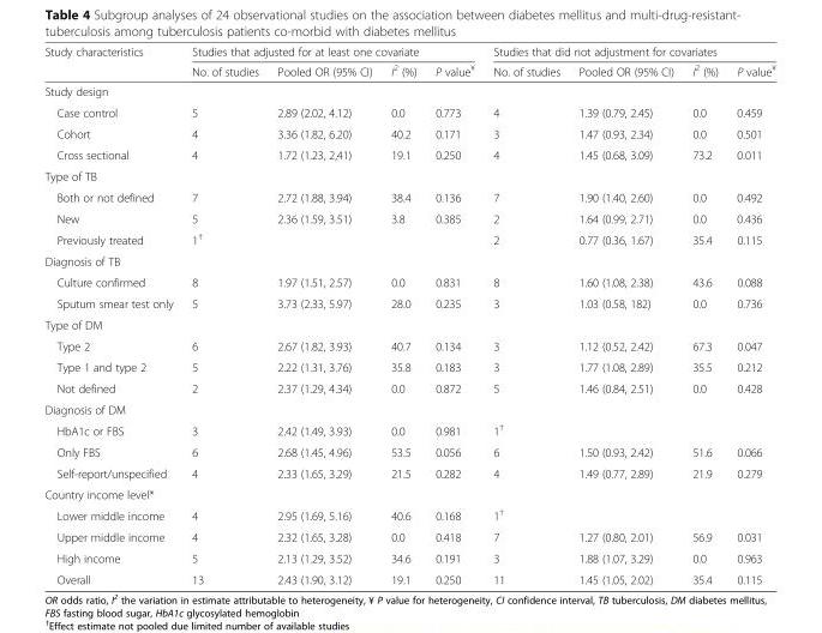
<table><thead><tr><td rowspan="2">Study characteristics</td><td colspan="4">Studies that adjusted for at least one covariate</td><td colspan="4">Studies that did not adjustment for covariates</td></tr><tr><td>No. of studies</td><td>Pooled OR (95% CI)</td><td>I<sup>2</sup> (%)</td><td>P value<sup>¥</sup></td><td>No. of studies</td><td>Pooled OR (95% CI)</td><td>I<sup>2</sup> (%)</td><td>P value<sup>¥</sup></td></tr></thead><tbody><tr><td colspan="9">Study design</td></tr><tr><td>Case control</td><td>5</td><td>2.89 (2.02, 4.12)</td><td>0.0</td><td>0.773</td><td>4</td><td>1.39 (0.79, 2.45)</td><td>0.0</td><td>0.459</td></tr><tr><td>Cohort</td><td>4</td><td>3.36 (1.82, 6.20)</td><td>40.2</td><td>0.171</td><td>3</td><td>1.47 (0.93, 2.34)</td><td>0.0</td><td>0.501</td></tr><tr><td>Cross sectional</td><td>4</td><td>1.72 (1.23, 2,41)</td><td>19.1</td><td>0.250</td><td>4</td><td>1.45 (0.68, 3.09)</td><td>73.2</td><td>0.011</td></tr><tr><td colspan="9">Type of TB</td></tr><tr><td>Both or not defined</td><td>7</td><td>2.72 (1.88, 3.94)</td><td>38.4</td><td>0.136</td><td>7</td><td>1.90 (1.40, 2.60)</td><td>0.0</td><td>0.492</td></tr><tr><td>New</td><td>5</td><td>2.36 (1.59, 3.51)</td><td>3.8</td><td>0.385</td><td>2</td><td>1.64 (0.99, 2.71)</td><td>0.0</td><td>0.436</td></tr><tr><td>Previously treated</td><td>1<sup>†</sup></td><td></td><td></td><td></td><td>2</td><td>0.77 (0.36, 1.67)</td><td>35.4</td><td>0.115</td></tr><tr><td colspan="9">Diagnosis of TB</td></tr><tr><td>Culture confirmed</td><td>8</td><td>1.97 (1.51, 2.57)</td><td>0.0</td><td>0.831</td><td>8</td><td>1.60 (1.08, 2.38)</td><td>43.6</td><td>0.088</td></tr><tr><td>Sputum smear test only</td><td>5</td><td>3.73 (2.33, 5.97)</td><td>28.0</td><td>0.235</td><td>3</td><td>1.03 (0.58, 182)</td><td>0.0</td><td>0.736</td></tr><tr><td colspan="9">Type of DM</td></tr><tr><td>Type 2</td><td>6</td><td>2.67 (1.82, 3.93)</td><td>40.7</td><td>0.134</td><td>3</td><td>1.12 (0.52, 2.42)</td><td>67.3</td><td>0.047</td></tr><tr><td>Type 1 and type 2</td><td>5</td><td>2.22 (1.31, 3.76)</td><td>35.8</td><td>0.183</td><td>3</td><td>1.77 (1.08, 2.89)</td><td>35.5</td><td>0.212</td></tr><tr><td>Not defined</td><td>2</td><td>2.37 (1.29, 4.34)</td><td>0.0</td><td>0.872</td><td>5</td><td>1.46 (0.84, 2.51)</td><td>0.0</td><td>0.428</td></tr><tr><td colspan="9">Diagnosis of DM</td></tr><tr><td>HbA1c or FBS</td><td>3</td><td>2.42 (1.49, 3.93)</td><td>0.0</td><td>0.981</td><td>1<sup>†</sup></td><td></td><td></td><td></td></tr><tr><td>Only FBS</td><td>6</td><td>2.68 (1.45, 4.96)</td><td>53.5</td><td>0.056</td><td>6</td><td>1.50 (0.93, 2.42)</td><td>51.6</td><td>0.066</td></tr><tr><td>Self-report/unspecified</td><td>4</td><td>2.33 (1.65, 3.29)</td><td>21.5</td><td>0.282</td><td>4</td><td>1.49 (0.77, 2.89)</td><td>21.9</td><td>0.279</td></tr><tr><td colspan="9">Country income level*</td></tr><tr><td>Lower middle income</td><td>4</td><td>2.95 (1.69, 5.16)</td><td>40.6</td><td>0.168</td><td>1<sup>†</sup></td><td></td><td></td><td></td></tr><tr><td>Upper middle income</td><td>4</td><td>2.32 (1.65, 3.28)</td><td>0.0</td><td>0.418</td><td>7</td><td>1.27 (0.80, 2.01)</td><td>56.9</td><td>0.031</td></tr><tr><td>High income</td><td>5</td><td>2.13 (1.29, 3.52)</td><td>34.6</td><td>0.191</td><td>3</td><td>1.88 (1.07, 3.29)</td><td>0.0</td><td>0.963</td></tr><tr><td>Overall</td><td>13</td><td>2.43 (1.90, 3.12)</td><td>19.1</td><td>0.250</td><td>11</td><td>1.45 (1.05, 2.02)</td><td>35.4</td><td>0.115</td></tr></tbody></table>